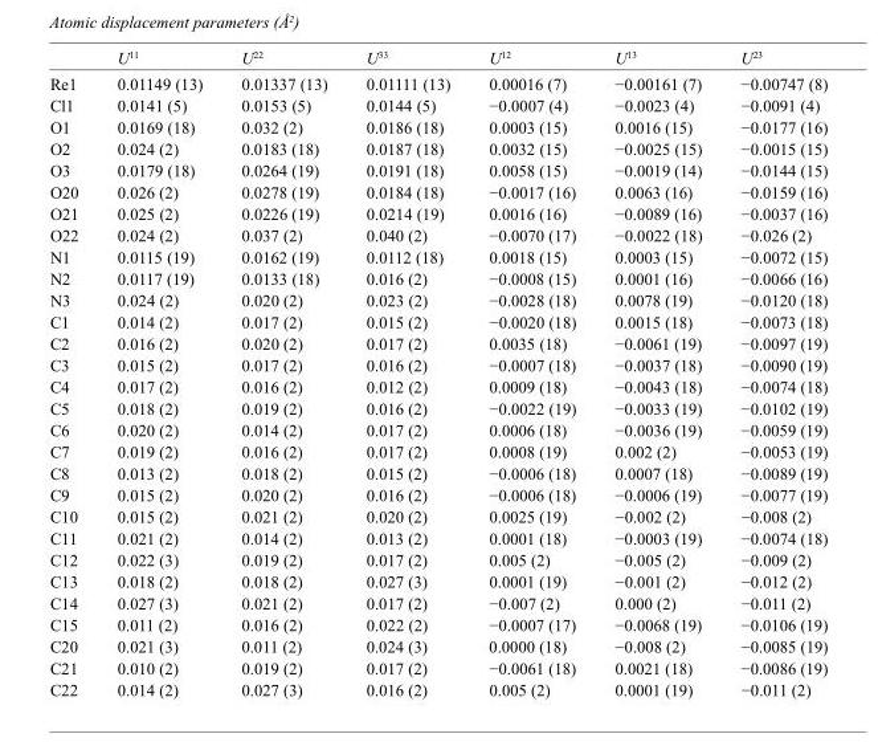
<table><thead><tr><td></td><td>U<sup>11</sup></td><td>U<sup>22</sup></td><td>U<sup>33</sup></td><td>U<sup>12</sup></td><td>U<sup>13</sup></td><td>U<sup>23</sup></td></tr></thead><tbody><tr><td>Re1</td><td>0.01149 (13)</td><td>0.01337 (13)</td><td>0.01111 (13)</td><td>0.00016 (7)</td><td>−0.00161 (7)</td><td>−0.00747 (8)</td></tr><tr><td>Cl1</td><td>0.0141 (5)</td><td>0.0153 (5)</td><td>0.0144 (5)</td><td>−0.0007 (4)</td><td>−0.0023 (4)</td><td>−0.0091 (4)</td></tr><tr><td>O1</td><td>0.0169 (18)</td><td>0.032 (2)</td><td>0.0186 (18)</td><td>0.0003 (15)</td><td>0.0016 (15)</td><td>−0.0177 (16)</td></tr><tr><td>O2</td><td>0.024 (2)</td><td>0.0183 (18)</td><td>0.0187 (18)</td><td>0.0032 (15)</td><td>−0.0025 (15)</td><td>−0.0015 (15)</td></tr><tr><td>O3</td><td>0.0179 (18)</td><td>0.0264 (19)</td><td>0.0191 (18)</td><td>0.0058 (15)</td><td>−0.0019 (14)</td><td>−0.0144 (15)</td></tr><tr><td>O20</td><td>0.026 (2)</td><td>0.0278 (19)</td><td>0.0184 (18)</td><td>−0.0017 (16)</td><td>0.0063 (16)</td><td>−0.0159 (16)</td></tr><tr><td>O21</td><td>0.025 (2)</td><td>0.0226 (19)</td><td>0.0214 (19)</td><td>0.0016 (16)</td><td>−0.0089 (16)</td><td>−0.0037 (16)</td></tr><tr><td>O22</td><td>0.024 (2)</td><td>0.037 (2)</td><td>0.040 (2)</td><td>−0.0070 (17)</td><td>−0.0022 (18)</td><td>−0.026 (2)</td></tr><tr><td>N1</td><td>0.0115 (19)</td><td>0.0162 (19)</td><td>0.0112 (18)</td><td>0.0018 (15)</td><td>0.0003 (15)</td><td>−0.0072 (15)</td></tr><tr><td>N2</td><td>0.0117 (19)</td><td>0.0133 (18)</td><td>0.016 (2)</td><td>−0.0008 (15)</td><td>0.0001 (16)</td><td>−0.0066 (16)</td></tr><tr><td>N3</td><td>0.024 (2)</td><td>0.020 (2)</td><td>0.023 (2)</td><td>−0.0028 (18)</td><td>0.0078 (19)</td><td>−0.0120 (18)</td></tr><tr><td>C1</td><td>0.014 (2)</td><td>0.017 (2)</td><td>0.015 (2)</td><td>−0.0020 (18)</td><td>0.0015 (18)</td><td>−0.0073 (18)</td></tr><tr><td>C2</td><td>0.016 (2)</td><td>0.020 (2)</td><td>0.017 (2)</td><td>0.0035 (18)</td><td>−0.0061 (19)</td><td>−0.0097 (19)</td></tr><tr><td>C3</td><td>0.015 (2)</td><td>0.017 (2)</td><td>0.016 (2)</td><td>−0.0007 (18)</td><td>−0.0037 (18)</td><td>−0.0090 (19)</td></tr><tr><td>C4</td><td>0.017 (2)</td><td>0.016 (2)</td><td>0.012 (2)</td><td>0.0009 (18)</td><td>−0.0043 (18)</td><td>−0.0074 (18)</td></tr><tr><td>C5</td><td>0.018 (2)</td><td>0.019 (2)</td><td>0.016 (2)</td><td>−0.0022 (19)</td><td>−0.0033 (19)</td><td>−0.0102 (19)</td></tr><tr><td>C6</td><td>0.020 (2)</td><td>0.014 (2)</td><td>0.017 (2)</td><td>0.0006 (18)</td><td>−0.0036 (19)</td><td>−0.0059 (19)</td></tr><tr><td>C7</td><td>0.019 (2)</td><td>0.016 (2)</td><td>0.017 (2)</td><td>0.0008 (19)</td><td>0.002 (2)</td><td>−0.0053 (19)</td></tr><tr><td>C8</td><td>0.013 (2)</td><td>0.018 (2)</td><td>0.015 (2)</td><td>−0.0006 (18)</td><td>0.0007 (18)</td><td>−0.0089 (19)</td></tr><tr><td>C9</td><td>0.015 (2)</td><td>0.020 (2)</td><td>0.016 (2)</td><td>−0.0006 (18)</td><td>−0.0006 (19)</td><td>−0.0077 (19)</td></tr><tr><td>C10</td><td>0.015 (2)</td><td>0.021 (2)</td><td>0.020 (2)</td><td>0.0025 (19)</td><td>−0.002 (2)</td><td>−0.008 (2)</td></tr><tr><td>C11</td><td>0.021 (2)</td><td>0.014 (2)</td><td>0.013 (2)</td><td>0.0001 (18)</td><td>−0.0003 (19)</td><td>−0.0074 (18)</td></tr><tr><td>C12</td><td>0.022 (3)</td><td>0.019 (2)</td><td>0.017 (2)</td><td>0.005 (2)</td><td>−0.005 (2)</td><td>−0.009 (2)</td></tr><tr><td>C13</td><td>0.018 (2)</td><td>0.018 (2)</td><td>0.027 (3)</td><td>0.0001 (19)</td><td>−0.001 (2)</td><td>−0.012 (2)</td></tr><tr><td>C14</td><td>0.027 (3)</td><td>0.021 (2)</td><td>0.017 (2)</td><td>−0.007 (2)</td><td>0.000 (2)</td><td>−0.011 (2)</td></tr><tr><td>C15</td><td>0.011 (2)</td><td>0.016 (2)</td><td>0.022 (2)</td><td>−0.0007 (17)</td><td>−0.0068 (19)</td><td>−0.0106 (19)</td></tr><tr><td>C20</td><td>0.021 (3)</td><td>0.011 (2)</td><td>0.024 (3)</td><td>0.0000 (18)</td><td>−0.008 (2)</td><td>−0.0085 (19)</td></tr><tr><td>C21</td><td>0.010 (2)</td><td>0.019 (2)</td><td>0.017 (2)</td><td>−0.0061 (18)</td><td>0.0021 (18)</td><td>−0.0086 (19)</td></tr><tr><td>C22</td><td>0.014 (2)</td><td>0.027 (3)</td><td>0.016 (2)</td><td>0.005 (2)</td><td>0.0001 (19)</td><td>−0.011 (2)</td></tr></tbody></table>